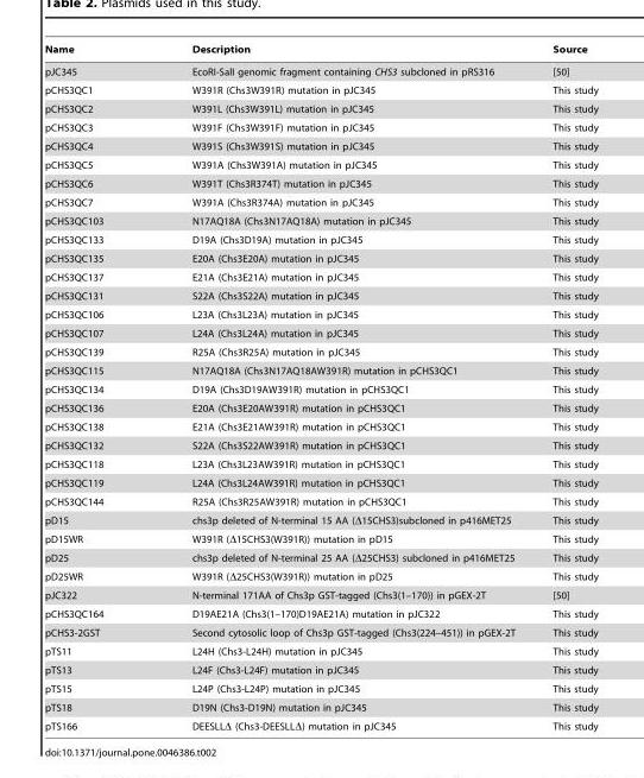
<table><thead><tr><td>Name</td><td>Description</td><td>Source</td></tr></thead><tbody><tr><td>pJC345</td><td>EcoRI-SalI genomic fragment containing CHS3 subcloned in pRS316</td><td>[50]</td></tr><tr><td>pCHS3QC1</td><td>W391R (Chs3W391R) mutation in pJC345</td><td>This study</td></tr><tr><td>pCHS3QC2</td><td>W391L (Chs3W391L) mutation in pJC345</td><td>This study</td></tr><tr><td>pCHS3QC3</td><td>W391F (Chs3W391F) mutation in pJC345</td><td>This study</td></tr><tr><td>pCHS3QC4</td><td>W391S (Chs3W391S) mutation in pJC345</td><td>This study</td></tr><tr><td>pCHS3QC5</td><td>W391A (Chs3W391A) mutation in pJC345</td><td>This study</td></tr><tr><td>pCHS3QC6</td><td>W391T (Chs3R374T) mutation in pJC345</td><td>This study</td></tr><tr><td>pCHS3QC7</td><td>W391A (Chs3R374A) mutation in pJC345</td><td>This study</td></tr><tr><td>pCHS3QC103</td><td>N17AQ18A (Chs3N17AQ18A) mutation in pJC345</td><td>This study</td></tr><tr><td>pCHS3QC133</td><td>D19A (Chs3D19A) mutation in pJC345</td><td>This study</td></tr><tr><td>pCHS3QC135</td><td>E20A (Chs3E20A) mutation in pJC345</td><td>This study</td></tr><tr><td>pCHS3QC137</td><td>E21A (Chs3E21A) mutation in pJC345</td><td>This study</td></tr><tr><td>pCHS3QC131</td><td>S22A (Chs3S22A) mutation in pJC345</td><td>This study</td></tr><tr><td>pCHS3QC106</td><td>L23A (Chs3L23A) mutation in pJC345</td><td>This study</td></tr><tr><td>pCHS3QC107</td><td>L24A (Chs3L24A) mutation in pJC345</td><td>This study</td></tr><tr><td>pCHS3QC139</td><td>R25A (Chs3R25A) mutation in pJC345</td><td>This study</td></tr><tr><td>pCHS3QC115</td><td>N17AQ18A (Chs3N17AQ18AW391R) mutation in pCHS3QC1</td><td>This study</td></tr><tr><td>pCHS3QC134</td><td>D19A (Chs3D19AW391R) mutation in pCHS3QC1</td><td>This study</td></tr><tr><td>pCHS3QC136</td><td>E20A (Chs3E20AW391R) mutation in pCHS3QC1</td><td>This study</td></tr><tr><td>pCHS3QC138</td><td>E21A (Chs3E21AW391R) mutation in pCHS3QC1</td><td>This study</td></tr><tr><td>pCHS3QC132</td><td>S22A (Chs3S22AW391R) mutation in pCHS3QC1</td><td>This study</td></tr><tr><td>pCHS3QC118</td><td>L23A (Chs3L23AW391R) mutation in pCHS3QC1</td><td>This study</td></tr><tr><td>pCHS3QC119</td><td>L24A (Chs3L24AW391R) mutation in pCHS3QC1</td><td>This study</td></tr><tr><td>pCHS3QC144</td><td>R25A (Chs3R25AW391R) mutation in pCHS3QC1</td><td>This study</td></tr><tr><td>pD15</td><td>chs3p deleted of N-terminal 15 AA (Δ15CHS3)subcloned in p416MET25</td><td>This study</td></tr><tr><td>pD15WR</td><td>W391R (Δ15CHS3(W391R)) mutation in pD15</td><td>This study</td></tr><tr><td>pD25</td><td>chs3p deleted of N-terminal 25 AA (Δ25CHS3) subcloned in p416MET25</td><td>This study</td></tr><tr><td>pD25WR</td><td>W391R (Δ25CHS3(W391R)) mutation in pD25</td><td>This study</td></tr><tr><td>pJC322</td><td>N-terminal 171AA of Chs3p GST-tagged (Chs3(1–170)) in pGEX-2T</td><td>[50]</td></tr><tr><td>pCHS3QC164</td><td>D19AE21A (Chs3(1–170)D19AE21A) mutation in pJC322</td><td>This study</td></tr><tr><td>pCHS3-2GST</td><td>Second cytosolic loop of Chs3p GST-tagged (Chs3(224–451)) in pGEX-2T</td><td>This study</td></tr><tr><td>pTS11</td><td>L24H (Chs3-L24H) mutation in pJC345</td><td>This study</td></tr><tr><td>pTS13</td><td>L24F (Chs3-L24F) mutation in pJC345</td><td>This study</td></tr><tr><td>pTS15</td><td>L24P (Chs3-L24P) mutation in pJC345</td><td>This study</td></tr><tr><td>pTS18</td><td>D19N (Chs3-D19N) mutation in pJC345</td><td>This study</td></tr><tr><td>pTS166</td><td>DEESLLΔ (Chs3-DEESLLΔ) mutation in pJC345</td><td>This study</td></tr></tbody></table>